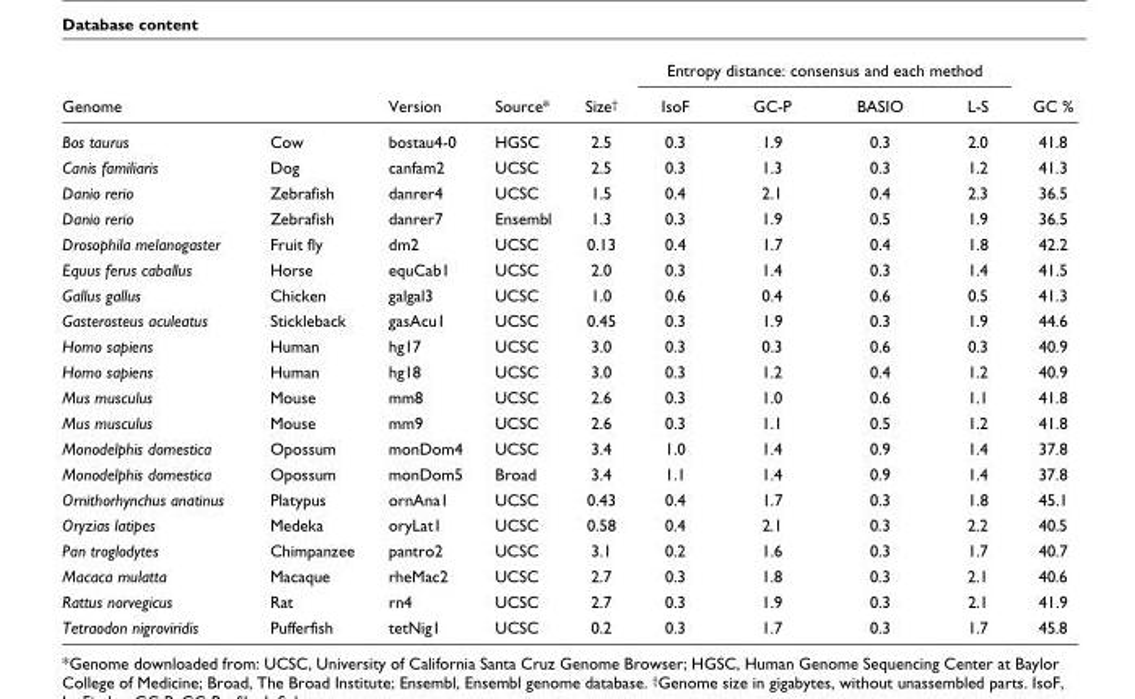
<table><thead><tr><td rowspan="2">Genome</td><td rowspan="2"></td><td rowspan="2">Version</td><td rowspan="2">Source*</td><td rowspan="2">Size<sup>†</sup></td><td colspan="4">Entropy distance: consensus and each method</td><td rowspan="2">GC %</td></tr><tr><td>IsoF</td><td>GC-P</td><td>BASIO</td><td>L-S</td></tr></thead><tbody><tr><td>Bos taurus</td><td>Cow</td><td>bostau4-0</td><td>HGSC</td><td>2.5</td><td>0.3</td><td>1.9</td><td>0.3</td><td>2.0</td><td>41.8</td></tr><tr><td>Canis familiaris</td><td>Dog</td><td>canfam2</td><td>UCSC</td><td>2.5</td><td>0.3</td><td>1.3</td><td>0.3</td><td>1.2</td><td>41.3</td></tr><tr><td>Danio rerio</td><td>Zebrafish</td><td>danrer4</td><td>UCSC</td><td>1.5</td><td>0.4</td><td>2.1</td><td>0.4</td><td>2.3</td><td>36.5</td></tr><tr><td>Danio rerio</td><td>Zebrafish</td><td>danrer7</td><td>Ensembl</td><td>1.3</td><td>0.3</td><td>1.9</td><td>0.5</td><td>1.9</td><td>36.5</td></tr><tr><td>Drosophila melanogaster</td><td>Fruit fly</td><td>dm2</td><td>UCSC</td><td>0.13</td><td>0.4</td><td>1.7</td><td>0.4</td><td>1.8</td><td>42.2</td></tr><tr><td>Equus ferus caballus</td><td>Horse</td><td>equCab1</td><td>UCSC</td><td>2.0</td><td>0.3</td><td>1.4</td><td>0.3</td><td>1.4</td><td>41.5</td></tr><tr><td>Gallus gallus</td><td>Chicken</td><td>galgal3</td><td>UCSC</td><td>1.0</td><td>0.6</td><td>0.4</td><td>0.6</td><td>0.5</td><td>41.3</td></tr><tr><td>Gasterosteus aculeatus</td><td>Stickleback</td><td>gasAcu1</td><td>UCSC</td><td>0.45</td><td>0.3</td><td>1.9</td><td>0.3</td><td>1.9</td><td>44.6</td></tr><tr><td>Homo sapiens</td><td>Human</td><td>hg17</td><td>UCSC</td><td>3.0</td><td>0.3</td><td>0.3</td><td>0.6</td><td>0.3</td><td>40.9</td></tr><tr><td>Homo sapiens</td><td>Human</td><td>hg18</td><td>UCSC</td><td>3.0</td><td>0.3</td><td>1.2</td><td>0.4</td><td>1.2</td><td>40.9</td></tr><tr><td>Mus musculus</td><td>Mouse</td><td>mm8</td><td>UCSC</td><td>2.6</td><td>0.3</td><td>1.0</td><td>0.6</td><td>1.1</td><td>41.8</td></tr><tr><td>Mus musculus</td><td>Mouse</td><td>mm9</td><td>UCSC</td><td>2.6</td><td>0.3</td><td>1.1</td><td>0.5</td><td>1.2</td><td>41.8</td></tr><tr><td>Monodelphis domestica</td><td>Opossum</td><td>monDom4</td><td>UCSC</td><td>3.4</td><td>1.0</td><td>1.4</td><td>0.9</td><td>1.4</td><td>37.8</td></tr><tr><td>Monodelphis domestica</td><td>Opossum</td><td>monDom5</td><td>Broad</td><td>3.4</td><td>1.1</td><td>1.4</td><td>0.9</td><td>1.4</td><td>37.8</td></tr><tr><td>Ornithorhynchus anatinus</td><td>Platypus</td><td>ornAna1</td><td>UCSC</td><td>0.43</td><td>0.4</td><td>1.7</td><td>0.3</td><td>1.8</td><td>45.1</td></tr><tr><td>Oryzias latipes</td><td>Medeka</td><td>oryLat1</td><td>UCSC</td><td>0.58</td><td>0.4</td><td>2.1</td><td>0.3</td><td>2.2</td><td>40.5</td></tr><tr><td>Pan troglodytes</td><td>Chimpanzee</td><td>pantro2</td><td>UCSC</td><td>3.1</td><td>0.2</td><td>1.6</td><td>0.3</td><td>1.7</td><td>40.7</td></tr><tr><td>Macaca mulatta</td><td>Macaque</td><td>rheMac2</td><td>UCSC</td><td>2.7</td><td>0.3</td><td>1.8</td><td>0.3</td><td>2.1</td><td>40.6</td></tr><tr><td>Rattus norvegicus</td><td>Rat</td><td>rn4</td><td>UCSC</td><td>2.7</td><td>0.3</td><td>1.9</td><td>0.3</td><td>2.1</td><td>41.9</td></tr><tr><td>Tetraodon nigroviridis</td><td>Pufferfish</td><td>tetNig1</td><td>UCSC</td><td>0.2</td><td>0.3</td><td>1.7</td><td>0.3</td><td>1.7</td><td>45.8</td></tr></tbody></table>